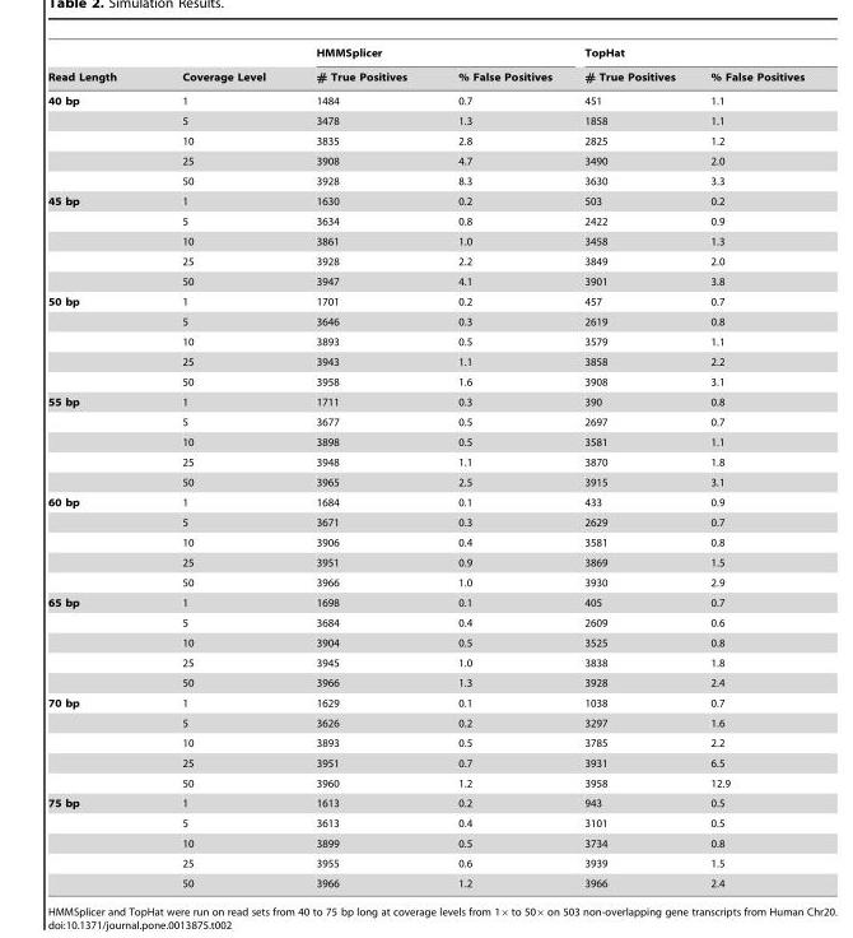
<table><thead><tr><td rowspan="2">Read Length</td><td rowspan="2">Coverage Level</td><td colspan="2">HMMSplicer</td><td colspan="2">TopHat</td></tr><tr><td># True Positives</td><td>% False Positives</td><td># True Positives</td><td>% False Positives</td></tr></thead><tbody><tr><td rowspan="5">40 bp</td><td>1</td><td>1484</td><td>0.7</td><td>451</td><td>1.1</td></tr><tr><td>5</td><td>3478</td><td>1.3</td><td>1858</td><td>1.1</td></tr><tr><td>10</td><td>3835</td><td>2.8</td><td>2825</td><td>1.2</td></tr><tr><td>25</td><td>3908</td><td>4.7</td><td>3490</td><td>2.0</td></tr><tr><td>50</td><td>3928</td><td>8.3</td><td>3630</td><td>3.3</td></tr><tr><td rowspan="5">45 bp</td><td>1</td><td>1630</td><td>0.2</td><td>503</td><td>0.2</td></tr><tr><td>5</td><td>3634</td><td>0.8</td><td>2422</td><td>0.9</td></tr><tr><td>10</td><td>3861</td><td>1.0</td><td>3458</td><td>1.3</td></tr><tr><td>25</td><td>3928</td><td>2.2</td><td>3849</td><td>2.0</td></tr><tr><td>50</td><td>3947</td><td>4.1</td><td>3901</td><td>3.8</td></tr><tr><td rowspan="5">50 bp</td><td>1</td><td>1701</td><td>0.2</td><td>457</td><td>0.7</td></tr><tr><td>5</td><td>3646</td><td>0.3</td><td>2619</td><td>0.8</td></tr><tr><td>10</td><td>3893</td><td>0.5</td><td>3579</td><td>1.1</td></tr><tr><td>25</td><td>3943</td><td>1.1</td><td>3858</td><td>2.2</td></tr><tr><td>50</td><td>3958</td><td>1.6</td><td>3908</td><td>3.1</td></tr><tr><td rowspan="5">55 bp</td><td>1</td><td>1711</td><td>0.3</td><td>390</td><td>0.8</td></tr><tr><td>5</td><td>3677</td><td>0.5</td><td>2697</td><td>0.7</td></tr><tr><td>10</td><td>3898</td><td>0.5</td><td>3581</td><td>1.1</td></tr><tr><td>25</td><td>3948</td><td>1.1</td><td>3870</td><td>1.8</td></tr><tr><td>50</td><td>3965</td><td>2.5</td><td>3915</td><td>3.1</td></tr><tr><td rowspan="5">60 bp</td><td>1</td><td>1684</td><td>0.1</td><td>433</td><td>0.9</td></tr><tr><td>5</td><td>3671</td><td>0.3</td><td>2629</td><td>0.7</td></tr><tr><td>10</td><td>3906</td><td>0.4</td><td>3581</td><td>0.8</td></tr><tr><td>25</td><td>3951</td><td>0.9</td><td>3869</td><td>1.5</td></tr><tr><td>50</td><td>3966</td><td>1.0</td><td>3930</td><td>2.9</td></tr><tr><td rowspan="5">65 bp</td><td>1</td><td>1698</td><td>0.1</td><td>405</td><td>0.7</td></tr><tr><td>5</td><td>3684</td><td>0.4</td><td>2609</td><td>0.6</td></tr><tr><td>10</td><td>3904</td><td>0.5</td><td>3525</td><td>0.8</td></tr><tr><td>25</td><td>3945</td><td>1.0</td><td>3838</td><td>1.8</td></tr><tr><td>50</td><td>3966</td><td>1.3</td><td>3928</td><td>2.4</td></tr><tr><td rowspan="5">70 bp</td><td>1</td><td>1629</td><td>0.1</td><td>1038</td><td>0.7</td></tr><tr><td>5</td><td>3626</td><td>0.2</td><td>3297</td><td>1.6</td></tr><tr><td>10</td><td>3893</td><td>0.5</td><td>3785</td><td>2.2</td></tr><tr><td>25</td><td>3951</td><td>0.7</td><td>3931</td><td>6.5</td></tr><tr><td>50</td><td>3960</td><td>1.2</td><td>3958</td><td>12.9</td></tr><tr><td rowspan="5">75 bp</td><td>1</td><td>1613</td><td>0.2</td><td>943</td><td>0.5</td></tr><tr><td>5</td><td>3613</td><td>0.4</td><td>3101</td><td>0.5</td></tr><tr><td>10</td><td>3899</td><td>0.5</td><td>3734</td><td>0.8</td></tr><tr><td>25</td><td>3955</td><td>0.6</td><td>3939</td><td>1.5</td></tr><tr><td>50</td><td>3966</td><td>1.2</td><td>3966</td><td>2.4</td></tr></tbody></table>